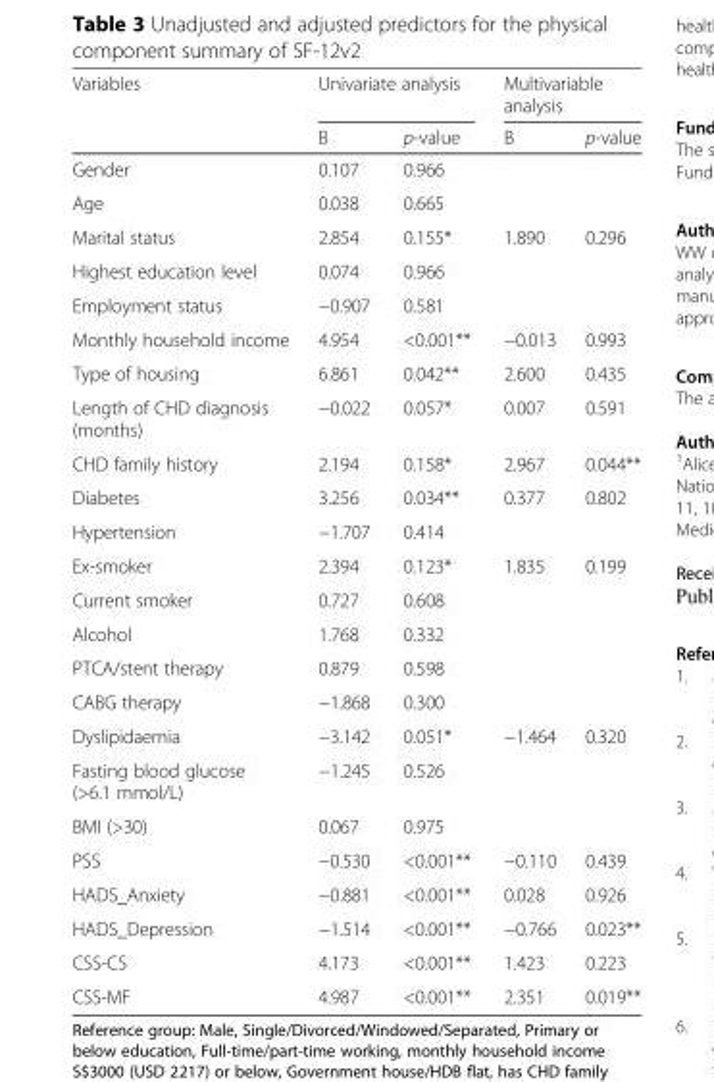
<table><thead><tr><td rowspan="2">Variables</td><td colspan="2">Univariate analysis</td><td colspan="2">Multivariable analysis</td></tr><tr><td>B</td><td>p-value</td><td>B</td><td>p-value</td></tr></thead><tbody><tr><td>Gender</td><td>0.107</td><td>0.966</td><td></td><td></td></tr><tr><td>Age</td><td>0.038</td><td>0.665</td><td></td><td></td></tr><tr><td>Marital status</td><td>2.854</td><td>0.155*</td><td>1.890</td><td>0.296</td></tr><tr><td>Highest education level</td><td>0.074</td><td>0.966</td><td></td><td></td></tr><tr><td>Employment status</td><td>−0.907</td><td>0.581</td><td></td><td></td></tr><tr><td>Monthly household income</td><td>4.954</td><td>&lt;0.001**</td><td>−0.013</td><td>0.993</td></tr><tr><td>Type of housing</td><td>6.861</td><td>0.042**</td><td>2.600</td><td>0.435</td></tr><tr><td>Length of CHD diagnosis (months)</td><td>−0.022</td><td>0.057*</td><td>0.007</td><td>0.591</td></tr><tr><td>CHD family history</td><td>2.194</td><td>0.158*</td><td>2.967</td><td>0.044**</td></tr><tr><td>Diabetes</td><td>3.256</td><td>0.034**</td><td>0.377</td><td>0.802</td></tr><tr><td>Hypertension</td><td>−1.707</td><td>0.414</td><td></td><td></td></tr><tr><td>Ex-smoker</td><td>2.394</td><td>0.123*</td><td>1.835</td><td>0.199</td></tr><tr><td>Current smoker</td><td>0.727</td><td>0.608</td><td></td><td></td></tr><tr><td>Alcohol</td><td>1.768</td><td>0.332</td><td></td><td></td></tr><tr><td>PTCA/stent therapy</td><td>0.879</td><td>0.598</td><td></td><td></td></tr><tr><td>CABG therapy</td><td>−1.868</td><td>0.300</td><td></td><td></td></tr><tr><td>Dyslipidaemia</td><td>−3.142</td><td>0.051*</td><td>−1.464</td><td>0.320</td></tr><tr><td>Fasting blood glucose (&gt;6.1 mmol/L)</td><td>−1.245</td><td>0.526</td><td></td><td></td></tr><tr><td>BMI (&gt;30)</td><td>0.067</td><td>0.975</td><td></td><td></td></tr><tr><td>PSS</td><td>−0.530</td><td>&lt;0.001**</td><td>−0.110</td><td>0.439</td></tr><tr><td>HADS_Anxiety</td><td>−0.881</td><td>&lt;0.001**</td><td>0.028</td><td>0.926</td></tr><tr><td>HADS_Depression</td><td>−1.514</td><td>&lt;0.001**</td><td>−0.766</td><td>0.023**</td></tr><tr><td>CSS-CS</td><td>4.173</td><td>&lt;0.001**</td><td>1.423</td><td>0.223</td></tr><tr><td>CSS-MF</td><td>4.987</td><td>&lt;0.001**</td><td>2.351</td><td>0.019**</td></tr></tbody></table>